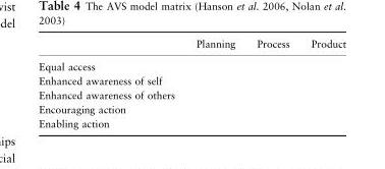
<table><thead><tr><td></td><td>Planning</td><td>Process</td><td>Product</td></tr></thead><tbody><tr><td colspan="4">Equal access</td></tr><tr><td colspan="4">Enhanced awareness of self</td></tr><tr><td colspan="4">Enhanced awareness of others</td></tr><tr><td colspan="4">Encouraging action</td></tr><tr><td>Enabling action</td><td></td><td></td><td></td></tr></tbody></table>